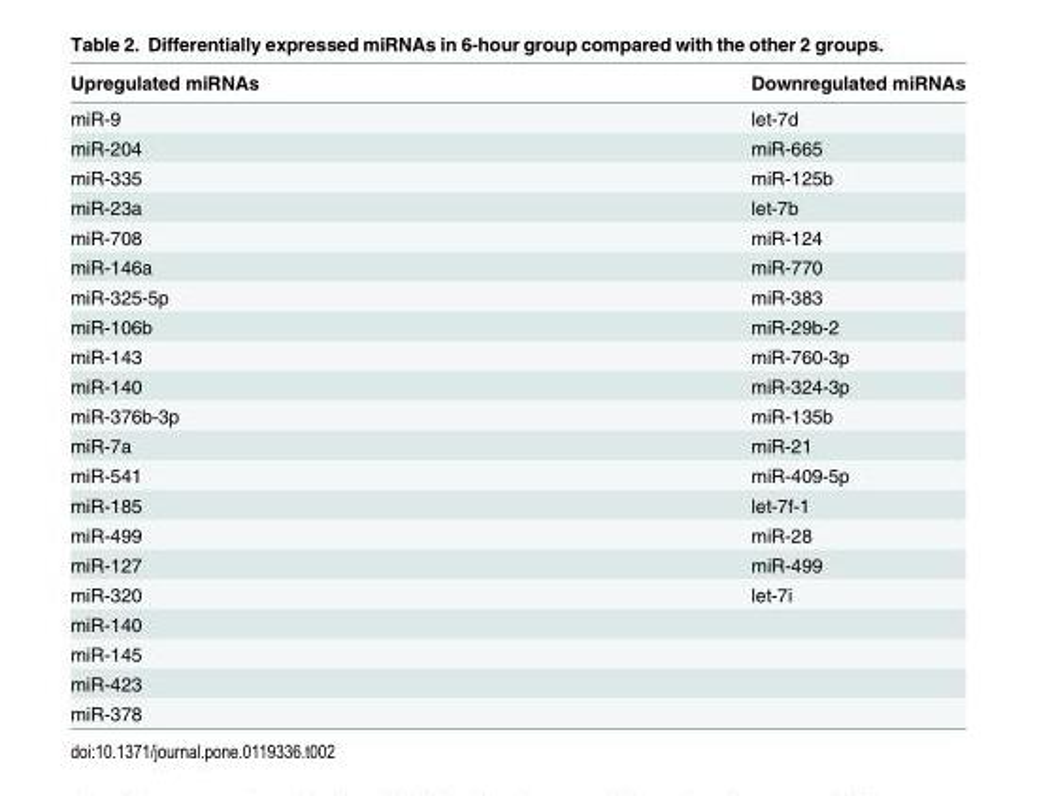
<table><thead><tr><td>Upregulated miRNAs</td><td>Downregulated miRNAs</td></tr></thead><tbody><tr><td>miR-9</td><td>let-7d</td></tr><tr><td>miR-204</td><td>miR-665</td></tr><tr><td>miR-335</td><td>miR-125b</td></tr><tr><td>miR-23a</td><td>let-7b</td></tr><tr><td>miR-708</td><td>miR-124</td></tr><tr><td>miR-146a</td><td>miR-770</td></tr><tr><td>miR-325-5p</td><td>miR-383</td></tr><tr><td>miR-106b</td><td>miR-29b-2</td></tr><tr><td>miR-143</td><td>miR-760-3p</td></tr><tr><td>miR-140</td><td>miR-324-3p</td></tr><tr><td>miR-376b-3p</td><td>miR-135b</td></tr><tr><td>miR-7a</td><td>miR-21</td></tr><tr><td>miR-541</td><td>miR-409-5p</td></tr><tr><td>miR-185</td><td>let-7f-1</td></tr><tr><td>miR-499</td><td>miR-28</td></tr><tr><td>miR-127</td><td>miR-499</td></tr><tr><td>miR-320</td><td>let-7i</td></tr><tr><td colspan="2">miR-140</td></tr><tr><td colspan="2">miR-145</td></tr><tr><td colspan="2">miR-423</td></tr><tr><td>miR-378</td><td></td></tr></tbody></table>